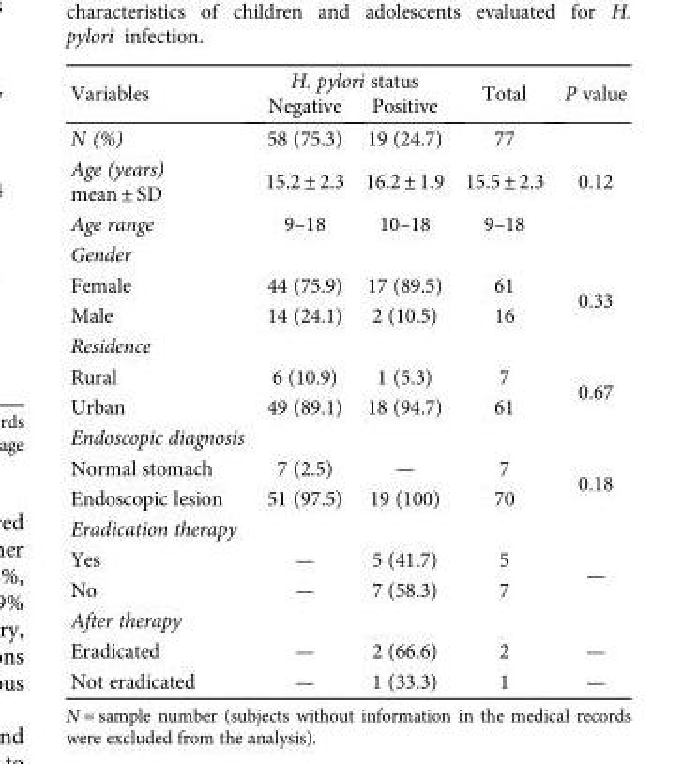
<table><thead><tr><td rowspan="2">Variables</td><td colspan="2">H. pylori status</td><td rowspan="2">Total</td><td rowspan="2">P value</td></tr><tr><td>Negative</td><td>Positive</td></tr></thead><tbody><tr><td>N (%)</td><td>58 (75.3)</td><td>19 (24.7)</td><td>77</td><td></td></tr><tr><td>Age (years) mean ± SD</td><td>15.2 ± 2.3</td><td>16.2 ± 1.9</td><td>15.5 ± 2.3</td><td>0.12</td></tr><tr><td>Age range</td><td>9–18</td><td>10–18</td><td>9–18</td><td></td></tr><tr><td colspan="5">Gender</td></tr><tr><td>Female</td><td>44 (75.9)</td><td>17 (89.5)</td><td>61</td><td rowspan="2">0.33</td></tr><tr><td>Male</td><td>14 (24.1)</td><td>2 (10.5)</td><td>16</td></tr><tr><td colspan="5">Residence</td></tr><tr><td>Rural</td><td>6 (10.9)</td><td>1 (5.3)</td><td>7</td><td rowspan="2">0.67</td></tr><tr><td>Urban</td><td>49 (89.1)</td><td>18 (94.7)</td><td>61</td></tr><tr><td colspan="5">Endoscopic diagnosis</td></tr><tr><td>Normal stomach</td><td>7 (2.5)</td><td>—</td><td>7</td><td rowspan="2">0.18</td></tr><tr><td>Endoscopic lesion</td><td>51 (97.5)</td><td>19 (100)</td><td>70</td></tr><tr><td colspan="5">Eradication therapy</td></tr><tr><td>Yes</td><td>—</td><td>5 (41.7)</td><td>5</td><td rowspan="2">—</td></tr><tr><td>No</td><td>—</td><td>7 (58.3)</td><td>7</td></tr><tr><td colspan="5">After therapy</td></tr><tr><td>Eradicated</td><td>—</td><td>2 (66.6)</td><td>2</td><td>—</td></tr><tr><td>Not eradicated</td><td>—</td><td>1 (33.3)</td><td>1</td><td>—</td></tr></tbody></table>